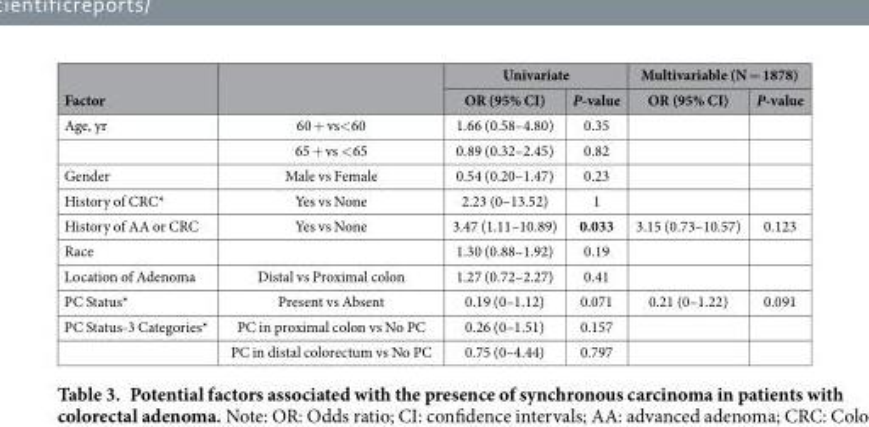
<table><thead><tr><td rowspan="2">Factor</td><td rowspan="2"></td><td colspan="2">Univariate</td><td colspan="2">Multivariable (N = 1878)</td></tr><tr><td>OR (95% CI)</td><td>P-value</td><td>OR (95% CI)</td><td>P-value</td></tr></thead><tbody><tr><td rowspan="2">Age, yr</td><td>60 + vs&lt; 60</td><td>1.66 (0.58–4.80)</td><td>0.35</td><td></td><td></td></tr><tr><td>65 + vs &lt; 65</td><td>0.89 (0.32–2.45)</td><td>0.82</td><td></td><td></td></tr><tr><td>Gender</td><td>Male vs Female</td><td>0.54 (0.20–1.47)</td><td>0.23</td><td></td><td></td></tr><tr><td>History of CRC*</td><td>Yes vs None</td><td>2.23 (0–13.52)</td><td>1</td><td></td><td></td></tr><tr><td>History of AA or CRC</td><td>Yes vs None</td><td>3.47 (1.11–10.89)</td><td>0.033</td><td>3.15 (0.73–10.57)</td><td>0.123</td></tr><tr><td>Race</td><td></td><td>1.30 (0.88–1.92)</td><td>0.19</td><td></td><td></td></tr><tr><td>Location of Adenoma</td><td>Distal vs Proximal colon</td><td>1.27 (0.72–2.27)</td><td>0.41</td><td></td><td></td></tr><tr><td>PC Status*</td><td>Present vs Absent</td><td>0.19 (0–1.12)</td><td>0.071</td><td>0.21 (0–1.22)</td><td>0.091</td></tr><tr><td rowspan="2">PC Status-3 Categories*</td><td>PC in proximal colon vs No PC</td><td>0.26 (0–1.51)</td><td>0.157</td><td></td><td></td></tr><tr><td>PC in distal colorectum vs No PC</td><td>0.75 (0–4.44)</td><td>0.797</td><td></td><td></td></tr></tbody></table>